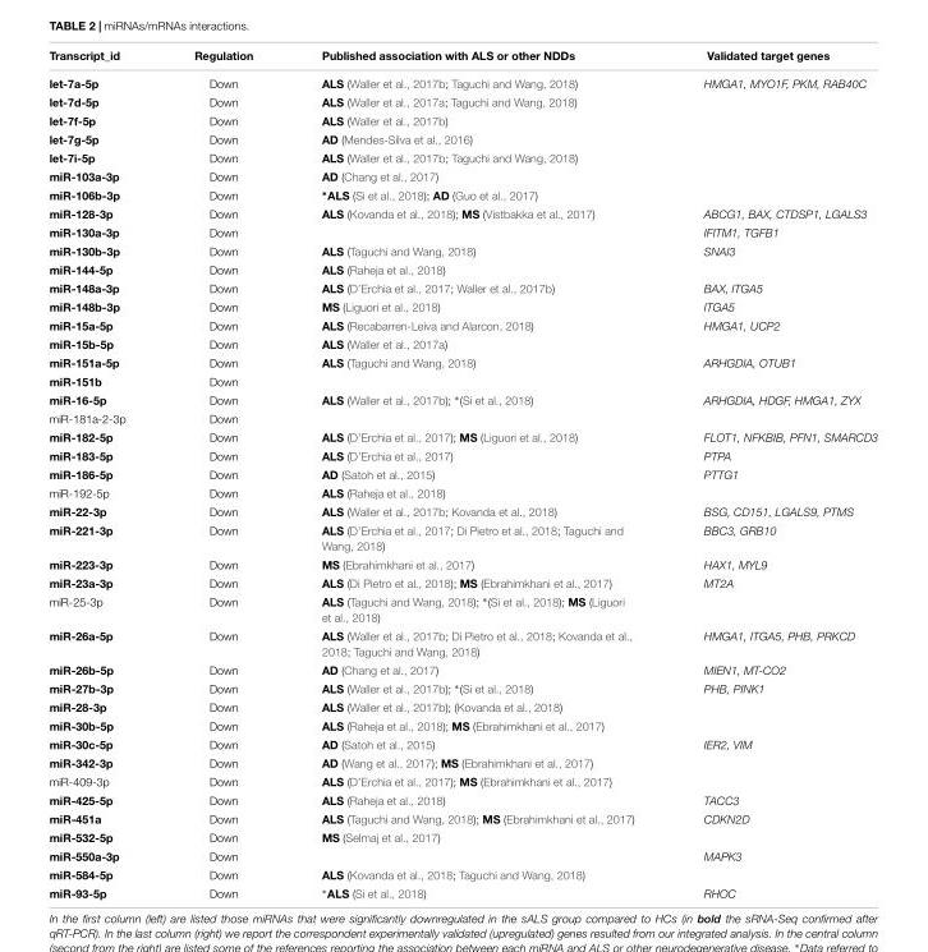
<table><thead><tr><td>Transcript_id</td><td>Regulation</td><td>Published association with ALS or other NDDs</td><td>Validated target genes</td></tr></thead><tbody><tr><td>let-7a-5p</td><td>Down</td><td>ALS (Waller et al., 2017b; Taguchi and Wang, 2018)</td><td>HMGA1, MYO1F, PKM, RAB40C</td></tr><tr><td>let-7d-5p</td><td>Down</td><td>ALS (Waller et al., 2017a; Taguchi and Wang, 2018)</td><td></td></tr><tr><td>let-7f-5p</td><td>Down</td><td>ALS (Waller et al., 2017b)</td><td></td></tr><tr><td>let-7g-5p</td><td>Down</td><td>AD (Mendes-Silva et al., 2016)</td><td></td></tr><tr><td>let-7i-5p</td><td>Down</td><td>ALS (Waller et al., 2017b; Taguchi and Wang, 2018)</td><td></td></tr><tr><td>miR-103a-3p</td><td>Down</td><td>AD (Chang et al., 2017)</td><td></td></tr><tr><td>miR-106b-3p</td><td>Down</td><td>∗ALS (Si et al., 2018); AD (Guo et al., 2017)</td><td></td></tr><tr><td>miR-128-3p</td><td>Down</td><td>ALS (Kovanda et al., 2018); MS (Vistbakka et al., 2017)</td><td>ABCG1, BAX, CTDSP1, LGALS3</td></tr><tr><td>miR-130a-3p</td><td>Down</td><td></td><td>IFITM1, TGFB1</td></tr><tr><td>miR-130b-3p</td><td>Down</td><td>ALS (Taguchi and Wang, 2018)</td><td>SNAI3</td></tr><tr><td>miR-144-5p</td><td>Down</td><td>ALS (Raheja et al., 2018)</td><td></td></tr><tr><td>miR-148a-3p</td><td>Down</td><td>ALS (D’Erchia et al., 2017; Waller et al., 2017b)</td><td>BAX, ITGA5</td></tr><tr><td>miR-148b-3p</td><td>Down</td><td>MS (Liguori et al., 2018)</td><td>ITGA5</td></tr><tr><td>miR-15a-5p</td><td>Down</td><td>ALS (Recabarren-Leiva and Alarcon, 2018)</td><td>HMGA1, UCP2</td></tr><tr><td>miR-15b-5p</td><td>Down</td><td>ALS (Waller et al., 2017a)</td><td></td></tr><tr><td>miR-151a-5p</td><td>Down</td><td>ALS (Taguchi and Wang, 2018)</td><td>ARHGDIA, OTUB1</td></tr><tr><td>miR-151b</td><td>Down</td><td></td><td></td></tr><tr><td>miR-16-5p</td><td>Down</td><td>ALS (Waller et al., 2017b); ∗(Si et al., 2018)</td><td>ARHGDIA, HDGF, HMGA1, ZYX</td></tr><tr><td>miR-181a-2-3p</td><td>Down</td><td></td><td></td></tr><tr><td>miR-182-5p</td><td>Down</td><td>ALS (D’Erchia et al., 2017); MS (Liguori et al., 2018)</td><td>FLOT1, NFKBIB, PFN1, SMARCD3</td></tr><tr><td>miR-183-5p</td><td>Down</td><td>ALS (D’Erchia et al., 2017)</td><td>PTPA</td></tr><tr><td>miR-186-5p</td><td>Down</td><td>AD (Satoh et al., 2015)</td><td>PTTG1</td></tr><tr><td>miR-192-5p</td><td>Down</td><td>ALS (Raheja et al., 2018)</td><td></td></tr><tr><td>miR-22-3p</td><td>Down</td><td>ALS (Waller et al., 2017b; Kovanda et al., 2018)</td><td>BSG, CD151, LGALS9, PTMS</td></tr><tr><td>miR-221-3p</td><td>Down</td><td>ALS (D’Erchia et al., 2017; Di Pietro et al., 2018; Taguchi and Wang, 2018)</td><td>BBC3, GRB10</td></tr><tr><td>miR-223-3p</td><td>Down</td><td>MS (Ebrahimkhani et al., 2017)</td><td>HAX1, MYL9</td></tr><tr><td>miR-23a-3p</td><td>Down</td><td>ALS (Di Pietro et al., 2018); MS (Ebrahimkhani et al., 2017)</td><td>MT2A</td></tr><tr><td>miR-25-3p</td><td>Down</td><td>ALS (Taguchi and Wang, 2018); ∗(Si et al., 2018); MS (Liguori et al., 2018)</td><td></td></tr><tr><td>miR-26a-5p</td><td>Down</td><td>ALS (Waller et al., 2017b; Di Pietro et al., 2018; Kovanda et al., 2018; Taguchi and Wang, 2018)</td><td>HMGA1, ITGA5, PHB, PRKCD</td></tr><tr><td>miR-26b-5p</td><td>Down</td><td>AD (Chang et al., 2017)</td><td>MIEN1, MT-CO2</td></tr><tr><td>miR-27b-3p</td><td>Down</td><td>ALS (Waller et al., 2017b); ∗(Si et al., 2018)</td><td>PHB, PINK1</td></tr><tr><td>miR-28-3p</td><td>Down</td><td>ALS (Waller et al., 2017b); (Kovanda et al., 2018)</td><td></td></tr><tr><td>miR-30b-5p</td><td>Down</td><td>ALS (Raheja et al., 2018); MS (Ebrahimkhani et al., 2017)</td><td></td></tr><tr><td>miR-30c-5p</td><td>Down</td><td>AD (Satoh et al., 2015)</td><td>IER2, VIM</td></tr><tr><td>miR-342-3p</td><td>Down</td><td>AD (Wang et al., 2017); MS (Ebrahimkhani et al., 2017)</td><td></td></tr><tr><td>miR-409-3p</td><td>Down</td><td>ALS (D’Erchia et al., 2017); MS (Ebrahimkhani et al., 2017)</td><td></td></tr><tr><td>miR-425-5p</td><td>Down</td><td>ALS (Raheja et al., 2018)</td><td>TACC3</td></tr><tr><td>miR-451a</td><td>Down</td><td>ALS (Taguchi and Wang, 2018); MS (Ebrahimkhani et al., 2017)</td><td>CDKN2D</td></tr><tr><td>miR-532-5p</td><td>Down</td><td>MS (Selmaj et al., 2017)</td><td></td></tr><tr><td>miR-550a-3p</td><td>Down</td><td></td><td>MAPK3</td></tr><tr><td>miR-584-5p</td><td>Down</td><td>ALS (Kovanda et al., 2018; Taguchi and Wang, 2018)</td><td></td></tr><tr><td>miR-93-5p</td><td>Down</td><td>∗ALS (Si et al., 2018)</td><td>RHOC</td></tr></tbody></table>